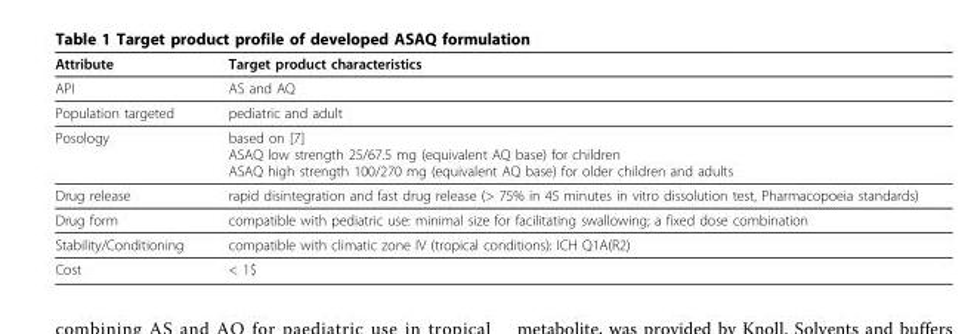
<table><thead><tr><td>Attribute</td><td>Target product characteristics</td></tr></thead><tbody><tr><td>API</td><td>AS and AQ</td></tr><tr><td>Population targeted</td><td>pediatric and adult</td></tr><tr><td>Posology</td><td>based on [7] ASAQ low strength 25/67.5 mg (equivalent AQ base) for children ASAQ high strength 100/270 mg (equivalent AQ base) for older children and adults</td></tr><tr><td>Drug release</td><td>rapid disintegration and fast drug release (&gt; 75% in 45 minutes in vitro dissolution test, Pharmacopoeia standards)</td></tr><tr><td>Drug form</td><td>compatible with pediatric use: minimal size for facilitating swallowing; a fixed dose combination</td></tr><tr><td>Stability/Conditioning</td><td>compatible with climatic zone IV (tropical conditions): ICH Q1A(R2)</td></tr><tr><td>Cost</td><td>&lt; 1$</td></tr></tbody></table>